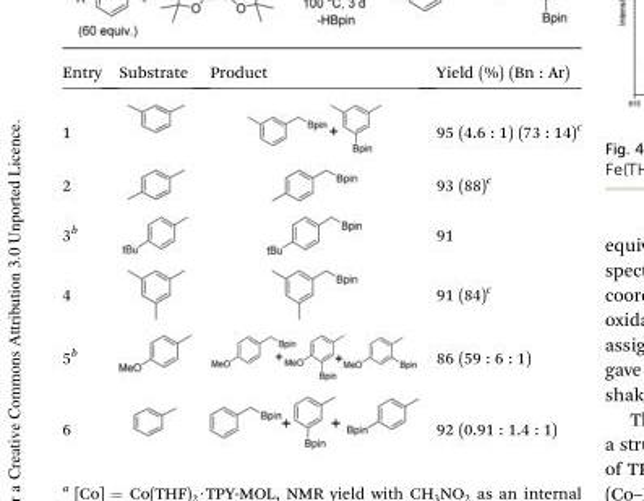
<table><thead><tr><td>Entry</td><td>Substrate</td><td>Product</td><td>Yield (%) (Bn : Ar)</td></tr></thead><tbody><tr><td>1</td><td></td><td></td><td>95 (4.6 : 1) (73 : 14)<sup>c</sup></td></tr><tr><td>2</td><td></td><td></td><td>93 (88)<sup>c</sup></td></tr><tr><td>3<sup>b</sup></td><td></td><td></td><td>91</td></tr><tr><td>4</td><td></td><td></td><td>91 (84)<sup>c</sup></td></tr><tr><td>5<sup>b</sup></td><td></td><td></td><td>86 (59 : 6 : 1)</td></tr><tr><td>6</td><td></td><td></td><td>92 (0.91 : 1.4 : 1)</td></tr></tbody></table>